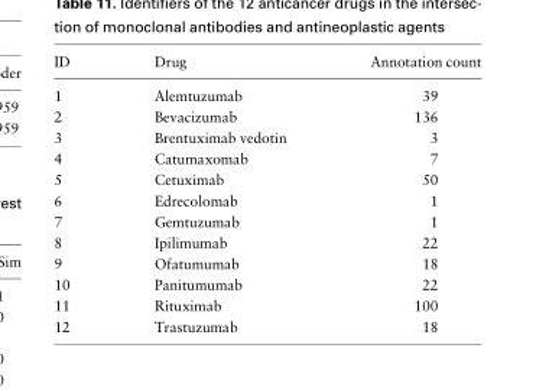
<table><thead><tr><td>ID</td><td>Drug</td><td>Annotation count</td></tr></thead><tbody><tr><td>1</td><td>Alemtuzumab</td><td>39</td></tr><tr><td>2</td><td>Bevacizumab</td><td>136</td></tr><tr><td>3</td><td>Brentuximab vedotin</td><td>3</td></tr><tr><td>4</td><td>Catumaxomab</td><td>7</td></tr><tr><td>5</td><td>Cetuximab</td><td>50</td></tr><tr><td>6</td><td>Edrecolomab</td><td>1</td></tr><tr><td>7</td><td>Gemtuzumab</td><td>1</td></tr><tr><td>8</td><td>Ipilimumab</td><td>22</td></tr><tr><td>9</td><td>Ofatumumab</td><td>18</td></tr><tr><td>10</td><td>Panitumumab</td><td>22</td></tr><tr><td>11</td><td>Rituximab</td><td>100</td></tr><tr><td>12</td><td>Trastuzumab</td><td>18</td></tr></tbody></table>